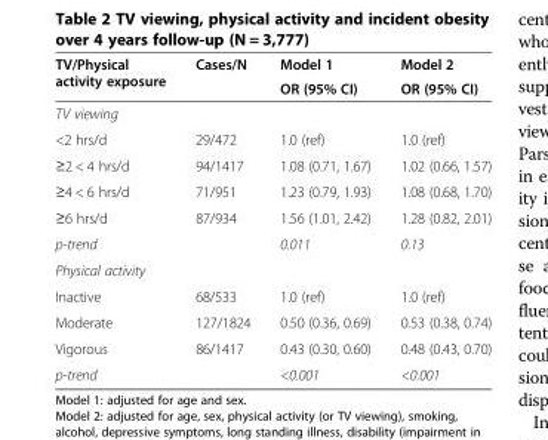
<table><thead><tr><td rowspan="2">TV/Physical activity exposure</td><td rowspan="2">Cases/N</td><td rowspan="2">Model 1 OR (95% CI)</td><td rowspan="2">Model 2 OR (95% CI)</td></tr><tr></tr></thead><tbody><tr><td colspan="4">TV viewing</td></tr><tr><td>&lt;2 hrs/d</td><td>29/472</td><td>1.0 (ref)</td><td>1.0 (ref)</td></tr><tr><td>≥2 &lt; 4 hrs/d</td><td>94/1417</td><td>1.08 (0.71, 1.67)</td><td>1.02 (0.66, 1.57)</td></tr><tr><td>≥4 &lt; 6 hrs/d</td><td>71/951</td><td>1.23 (0.79, 1.93)</td><td>1.08 (0.68, 1.70)</td></tr><tr><td>≥6 hrs/d</td><td>87/934</td><td>1.56 (1.01, 2.42)</td><td>1.28 (0.82, 2.01)</td></tr><tr><td>p-trend</td><td></td><td>0.011</td><td>0.13</td></tr><tr><td colspan="4">Physical activity</td></tr><tr><td>Inactive</td><td>68/533</td><td>1.0 (ref)</td><td>1.0 (ref)</td></tr><tr><td>Moderate</td><td>127/1824</td><td>0.50 (0.36, 0.69)</td><td>0.53 (0.38, 0.74)</td></tr><tr><td>Vigorous</td><td>86/1417</td><td>0.43 (0.30, 0.60)</td><td>0.48 (0.43, 0.70)</td></tr><tr><td>p-trend</td><td></td><td>&lt;0.001</td><td>&lt;0.001</td></tr></tbody></table>